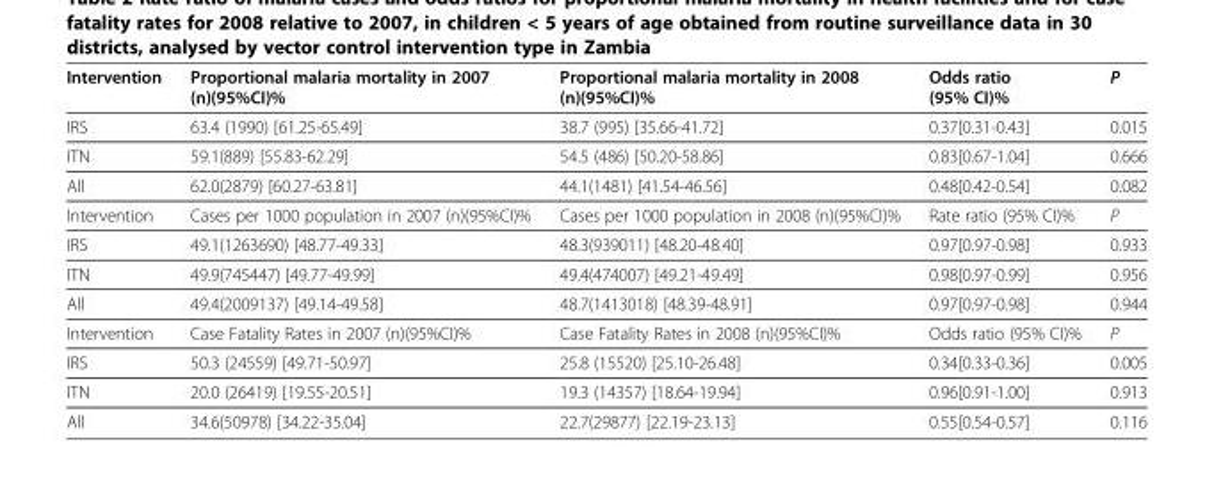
<table><thead><tr><td>Intervention</td><td>Proportional malaria mortality in 2007 (n)(95%CI)%</td><td>Proportional malaria mortality in 2008 (n)(95%CI)%</td><td>Odds ratio (95% CI)%</td><td>P</td></tr></thead><tbody><tr><td>IRS</td><td>63.4 (1990) [61.25-65.49]</td><td>38.7 (995) [35.66-41.72]</td><td>0.37[0.31-0.43]</td><td>0.015</td></tr><tr><td>ITN</td><td>59.1(889) [55.83-62.29]</td><td>54.5 (486) [50.20-58.86]</td><td>0.83[0.67-1.04]</td><td>0.666</td></tr><tr><td>All</td><td>62.0(2879) [60.27-63.81]</td><td>44.1(1481) [41.54-46.56]</td><td>0.48[0.42-0.54]</td><td>0.082</td></tr><tr><td>Intervention</td><td>Cases per 1000 population in 2007 (n)(95%CI)%</td><td>Cases per 1000 population in 2008 (n)(95%CI)%</td><td>Rate ratio (95% CI)%</td><td>P</td></tr><tr><td>IRS</td><td>49.1(1263690) [48.77-49.33]</td><td>48.3(939011) [48.20-48.40]</td><td>0.97[0.97-0.98]</td><td>0.933</td></tr><tr><td>ITN</td><td>49.9(745447) [49.77-49.99]</td><td>49.4(474007) [49.21-49.49]</td><td>0.98[0.97-0.99]</td><td>0.956</td></tr><tr><td>All</td><td>49.4(2009137) [49.14-49.58]</td><td>48.7(1413018) [48.39-48.91]</td><td>0.97[0.97-0.98]</td><td>0.944</td></tr><tr><td>Intervention</td><td>Case Fatality Rates in 2007 (n)(95%CI)%</td><td>Case Fatality Rates in 2008 (n)(95%CI)%</td><td>Odds ratio (95% CI)%</td><td>P</td></tr><tr><td>IRS</td><td>50.3 (24559) [49.71-50.97]</td><td>25.8 (15520) [25.10-26.48]</td><td>0.34[0.33-0.36]</td><td>0.005</td></tr><tr><td>ITN</td><td>20.0 (26419) [19.55-20.51]</td><td>19.3 (14357) [18.64-19.94]</td><td>0.96[0.91-1.00]</td><td>0.913</td></tr><tr><td>All</td><td>34.6(50978) [34.22-35.04]</td><td>22.7(29877) [22.19-23.13]</td><td>0.55[0.54-0.57]</td><td>0.116</td></tr></tbody></table>